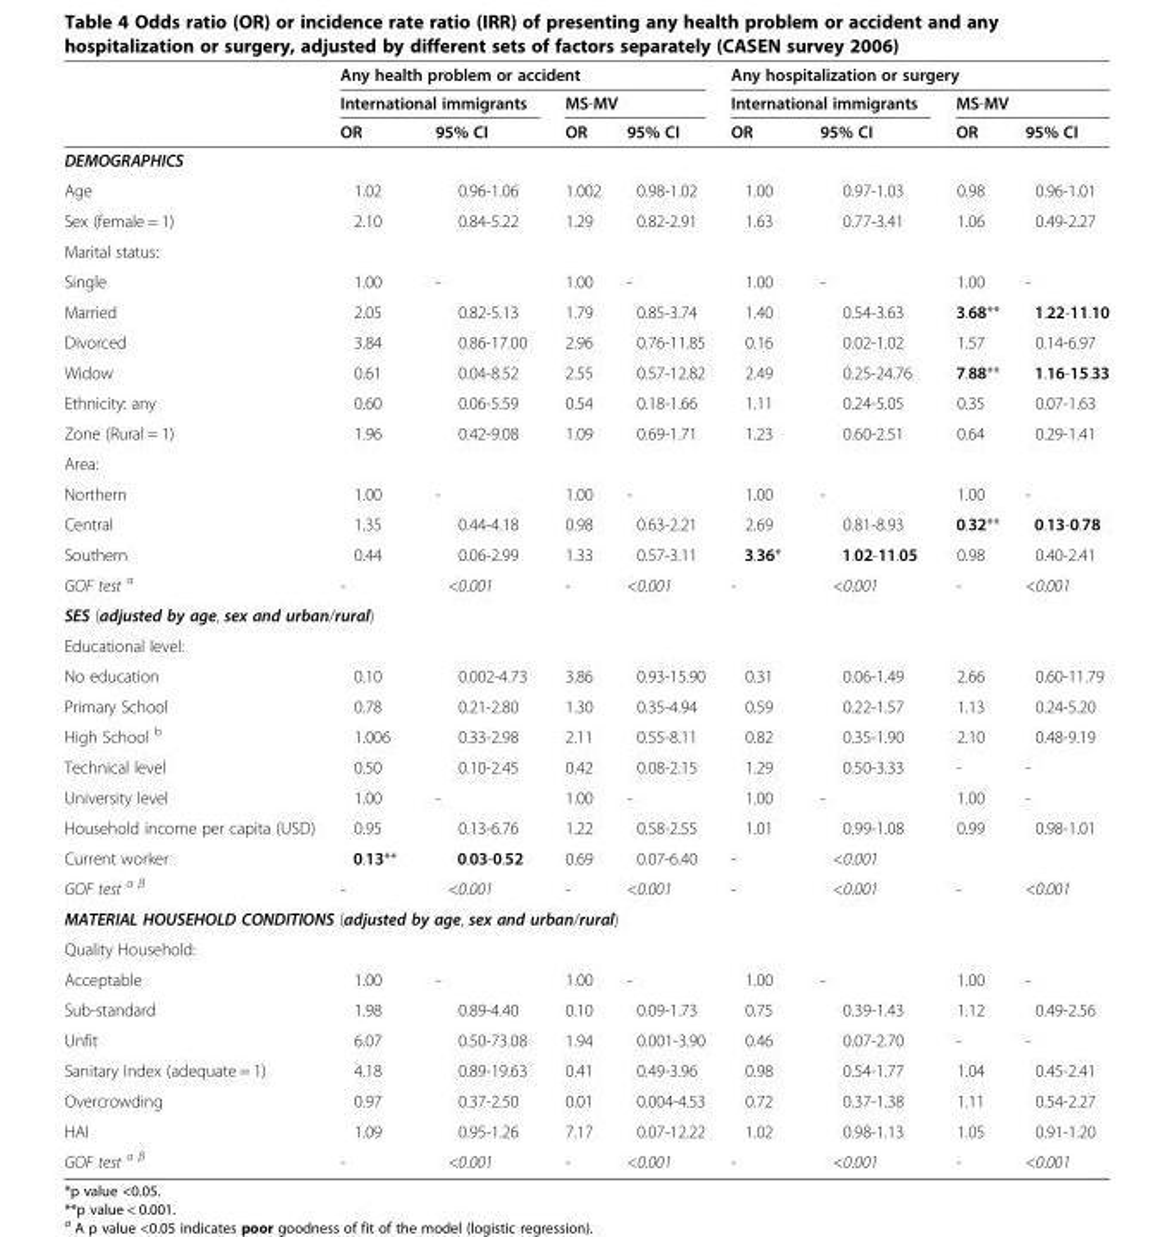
<table><thead><tr><td rowspan="3"></td><td colspan="4">Any health problem or accident</td><td colspan="4">Any hospitalization or surgery</td></tr><tr><td colspan="2">International immigrants</td><td colspan="2">MS-MV</td><td colspan="2">International immigrants</td><td colspan="2">MS-MV</td></tr><tr><td>OR</td><td>95% CI</td><td>OR</td><td>95% CI</td><td>OR</td><td>95% CI</td><td>OR</td><td>95% CI</td></tr></thead><tbody><tr><td colspan="9">DEMOGRAPHICS</td></tr><tr><td>Age</td><td>1.02</td><td>0.96-1.06</td><td>1.002</td><td>0.98-1.02</td><td>1.00</td><td>0.97-1.03</td><td>0.98</td><td>0.96-1.01</td></tr><tr><td>Sex (female = 1)</td><td>2.10</td><td>0.84-5.22</td><td>1.29</td><td>0.82-2.91</td><td>1.63</td><td>0.77-3.41</td><td>1.06</td><td>0.49-2.27</td></tr><tr><td colspan="9">Marital status:</td></tr><tr><td>Single</td><td>1.00</td><td>-</td><td>1.00</td><td>-</td><td>1.00</td><td>-</td><td>1.00</td><td>-</td></tr><tr><td>Married</td><td>2.05</td><td>0.82-5.13</td><td>1.79</td><td>0.85-3.74</td><td>1.40</td><td>0.54-3.63</td><td>3.68**</td><td>1.22-11.10</td></tr><tr><td>Divorced</td><td>3.84</td><td>0.86-17.00</td><td>2.96</td><td>0.76-11.85</td><td>0.16</td><td>0.02-1.02</td><td>1.57</td><td>0.14-6.97</td></tr><tr><td>Widow</td><td>0.61</td><td>0.04-8.52</td><td>2.55</td><td>0.57-12.82</td><td>2.49</td><td>0.25-24.76</td><td>7.88**</td><td>1.16-15.33</td></tr><tr><td>Ethnicity: any</td><td>0.60</td><td>0.06-5.59</td><td>0.54</td><td>0.18-1.66</td><td>1.11</td><td>0.24-5.05</td><td>0.35</td><td>0.07-1.63</td></tr><tr><td>Zone (Rural = 1)</td><td>1.96</td><td>0.42-9.08</td><td>1.09</td><td>0.69-1.71</td><td>1.23</td><td>0.60-2.51</td><td>0.64</td><td>0.29-1.41</td></tr><tr><td colspan="9">Area:</td></tr><tr><td>Northern</td><td>1.00</td><td>-</td><td>1.00</td><td>-</td><td>1.00</td><td>-</td><td>1.00</td><td>-</td></tr><tr><td>Central</td><td>1.35</td><td>0.44-4.18</td><td>0.98</td><td>0.63-2.21</td><td>2.69</td><td>0.81-8.93</td><td>0.32**</td><td>0.13-0.78</td></tr><tr><td>Southern</td><td>0.44</td><td>0.06-2.99</td><td>1.33</td><td>0.57-3.11</td><td>3.36*</td><td>1.02-11.05</td><td>0.98</td><td>0.40-2.41</td></tr><tr><td>GOF test <sup>α</sup></td><td>-</td><td>&lt;0.001</td><td>-</td><td>&lt;0.001</td><td>-</td><td>&lt;0.001</td><td>-</td><td>&lt;0.001</td></tr><tr><td colspan="9">SES (adjusted by age, sex and urban/rural)</td></tr><tr><td colspan="9">Educational level:</td></tr><tr><td>No education</td><td>0.10</td><td>0.002-4.73</td><td>3.86</td><td>0.93-15.90</td><td>0.31</td><td>0.06-1.49</td><td>2.66</td><td>0.60-11.79</td></tr><tr><td>Primary School</td><td>0.78</td><td>0.21-2.80</td><td>1.30</td><td>0.35-4.94</td><td>0.59</td><td>0.22-1.57</td><td>1.13</td><td>0.24-5.20</td></tr><tr><td>High School <sup>b</sup></td><td>1.006</td><td>0.33-2.98</td><td>2.11</td><td>0.55-8.11</td><td>0.82</td><td>0.35-1.90</td><td>2.10</td><td>0.48-9.19</td></tr><tr><td>Technical level</td><td>0.50</td><td>0.10-2.45</td><td>0.42</td><td>0.08-2.15</td><td>1.29</td><td>0.50-3.33</td><td>-</td><td>-</td></tr><tr><td>University level</td><td>1.00</td><td>-</td><td>1.00</td><td>-</td><td>1.00</td><td>-</td><td>1.00</td><td>-</td></tr><tr><td>Household income per capita (USD)</td><td>0.95</td><td>0.13-6.76</td><td>1.22</td><td>0.58-2.55</td><td>1.01</td><td>0.99-1.08</td><td>0.99</td><td>0.98-1.01</td></tr><tr><td>Current worker</td><td>0.13**</td><td>0.03-0.52</td><td>0.69</td><td>0.07-6.40</td><td>-</td><td>&lt;0.001</td><td></td><td></td></tr><tr><td>GOF test <sup>α β</sup></td><td>-</td><td>&lt;0.001</td><td>-</td><td>&lt;0.001</td><td>-</td><td>&lt;0.001</td><td>-</td><td>&lt;0.001</td></tr><tr><td colspan="9">MATERIAL HOUSEHOLD CONDITIONS (adjusted by age, sex and urban/rural)</td></tr><tr><td colspan="9">Quality Household:</td></tr><tr><td>Acceptable</td><td>1.00</td><td>-</td><td>1.00</td><td>-</td><td>1.00</td><td>-</td><td>1.00</td><td>-</td></tr><tr><td>Sub-standard</td><td>1.98</td><td>0.89-4.40</td><td>0.10</td><td>0.09-1.73</td><td>0.75</td><td>0.39-1.43</td><td>1.12</td><td>0.49-2.56</td></tr><tr><td>Unfit</td><td>6.07</td><td>0.50-73.08</td><td>1.94</td><td>0.001-3.90</td><td>0.46</td><td>0.07-2.70</td><td>-</td><td>-</td></tr><tr><td>Sanitary Index (adequate = 1)</td><td>4.18</td><td>0.89-19.63</td><td>0.41</td><td>0.49-3.96</td><td>0.98</td><td>0.54-1.77</td><td>1.04</td><td>0.45-2.41</td></tr><tr><td>Overcrowding</td><td>0.97</td><td>0.37-2.50</td><td>0.01</td><td>0.004-4.53</td><td>0.72</td><td>0.37-1.38</td><td>1.11</td><td>0.54-2.27</td></tr><tr><td>HAI</td><td>1.09</td><td>0.95-1.26</td><td>7.17</td><td>0.07-12.22</td><td>1.02</td><td>0.98-1.13</td><td>1.05</td><td>0.91-1.20</td></tr><tr><td>GOF test <sup>α β</sup></td><td>-</td><td>&lt;0.001</td><td>-</td><td>&lt;0.001</td><td>-</td><td>&lt;0.001</td><td>-</td><td>&lt;0.001</td></tr></tbody></table>